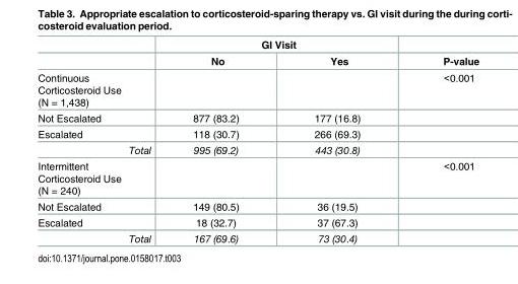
<table><thead><tr><td rowspan="2"></td><td colspan="2">GI Visit</td><td rowspan="2">P-value</td></tr><tr><td>No</td><td>Yes</td></tr></thead><tbody><tr><td>Continuous Corticosteroid Use (N = 1,438)</td><td></td><td></td><td>&lt;0.001</td></tr><tr><td>Not Escalated</td><td>877 (83.2)</td><td>177 (16.8)</td><td></td></tr><tr><td>Escalated</td><td>118 (30.7)</td><td>266 (69.3)</td><td></td></tr><tr><td>Total</td><td>995 (69.2)</td><td>443 (30.8)</td><td></td></tr><tr><td>Intermittent Corticosteroid Use (N = 240)</td><td></td><td></td><td>&lt;0.001</td></tr><tr><td>Not Escalated</td><td>149 (80.5)</td><td>36 (19.5)</td><td></td></tr><tr><td>Escalated</td><td>18 (32.7)</td><td>37 (67.3)</td><td></td></tr><tr><td>Total</td><td>167 (69.6)</td><td>73 (30.4)</td><td></td></tr></tbody></table>